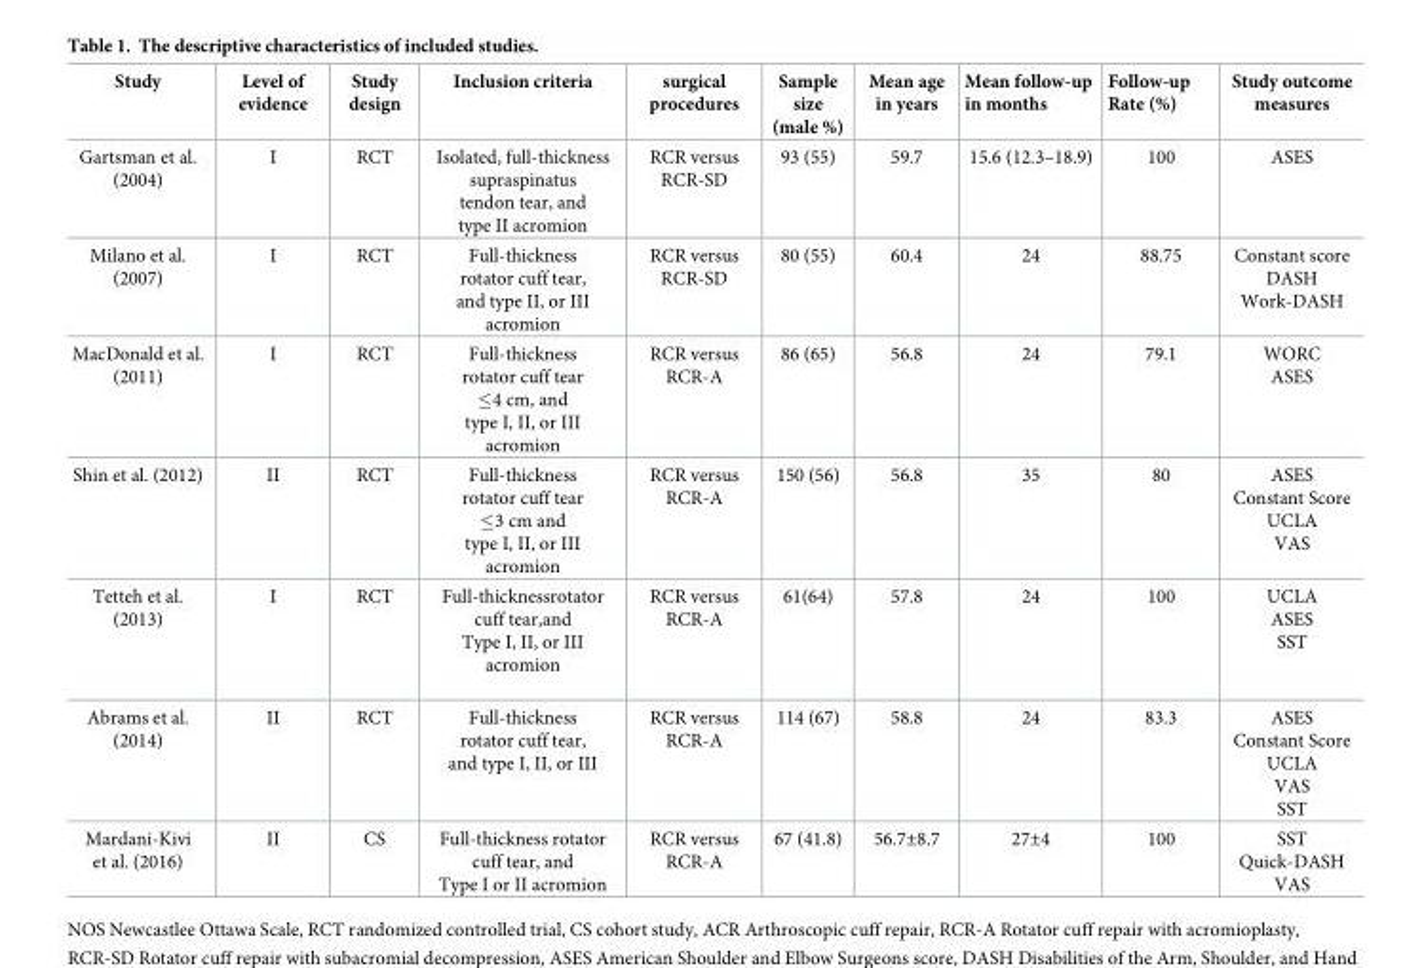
<table><thead><tr><td>Study</td><td>Level of evidence</td><td>Study design</td><td>Inclusion criteria</td><td>surgical procedures</td><td>Sample size (male %)</td><td>Mean age in years</td><td>Mean follow-up in months</td><td>Follow-up Rate (%)</td><td>Study outcome measures</td></tr></thead><tbody><tr><td>Gartsman et al. (2004)</td><td>I</td><td>RCT</td><td>Isolated, full-thickness supraspinatus tendon tear, and type II acromion</td><td>RCR versus RCR-SD</td><td>93 (55)</td><td>59.7</td><td>15.6 (12.3–18.9)</td><td>100</td><td>ASES</td></tr><tr><td>Milano et al. (2007)</td><td>I</td><td>RCT</td><td>Full-thickness rotator cuff tear, and type II, or III acromion</td><td>RCR versus RCR-SD</td><td>80 (55)</td><td>60.4</td><td>24</td><td>88.75</td><td>Constant score DASH Work-DASH</td></tr><tr><td>MacDonald et al. (2011)</td><td>I</td><td>RCT</td><td>Full-thickness rotator cuff tear ≤4 cm, and type I, II, or III acromion</td><td>RCR versus RCR-A</td><td>86 (65)</td><td>56.8</td><td>24</td><td>79.1</td><td>WORC ASES</td></tr><tr><td>Shin et al. (2012)</td><td>II</td><td>RCT</td><td>Full-thickness rotator cuff tear ≤3 cm and type I, II, or III acromion</td><td>RCR versus RCR-A</td><td>150 (56)</td><td>56.8</td><td>35</td><td>80</td><td>ASES Constant Score UCLA VAS</td></tr><tr><td>Tetteh et al. (2013)</td><td>I</td><td>RCT</td><td>Full-thicknessrotator cuff tear,and Type I, II, or III acromion</td><td>RCR versus RCR-A</td><td>61(64)</td><td>57.8</td><td>24</td><td>100</td><td>UCLA ASES SST</td></tr><tr><td>Abrams et al. (2014)</td><td>II</td><td>RCT</td><td>Full-thickness rotator cuff tear, and type I, II, or III</td><td>RCR versus RCR-A</td><td>114 (67)</td><td>58.8</td><td>24</td><td>83.3</td><td>ASES Constant Score UCLA VAS SST</td></tr><tr><td>Mardani-Kivi et al. (2016)</td><td>II</td><td>CS</td><td>Full-thickness rotator cuff tear, and Type I or II acromion</td><td>RCR versus RCR-A</td><td>67 (41.8)</td><td>56.7±8.7</td><td>27±4</td><td>100</td><td>SST Quick-DASH VAS</td></tr></tbody></table>